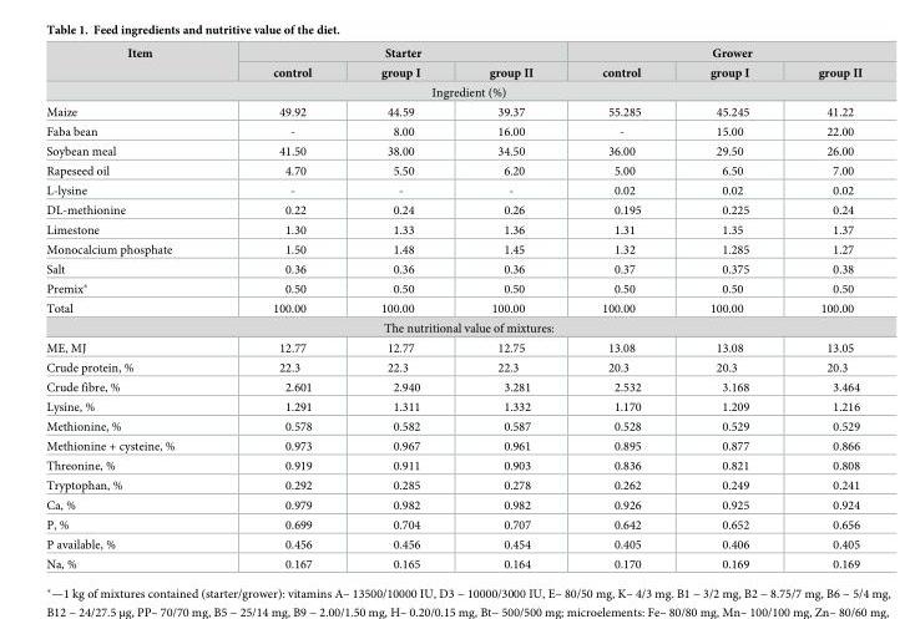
<table><thead><tr><td rowspan="2">Item</td><td colspan="3">Starter</td><td colspan="3">Grower</td></tr><tr><td>control</td><td>group I</td><td>group II</td><td>control</td><td>group I</td><td>group II</td></tr></thead><tbody><tr><td colspan="7">Ingredient (%)</td></tr><tr><td>Maize</td><td>49.92</td><td>44.59</td><td>39.37</td><td>55.285</td><td>45.245</td><td>41.22</td></tr><tr><td>Faba bean</td><td>-</td><td>8.00</td><td>16.00</td><td>-</td><td>15.00</td><td>22.00</td></tr><tr><td>Soybean meal</td><td>41.50</td><td>38.00</td><td>34.50</td><td>36.00</td><td>29.50</td><td>26.00</td></tr><tr><td>Rapeseed oil</td><td>4.70</td><td>5.50</td><td>6.20</td><td>5.00</td><td>6.50</td><td>7.00</td></tr><tr><td>L-lysine</td><td>-</td><td>-</td><td>-</td><td>0.02</td><td>0.02</td><td>0.02</td></tr><tr><td>DL-methionine</td><td>0.22</td><td>0.24</td><td>0.26</td><td>0.195</td><td>0.225</td><td>0.24</td></tr><tr><td>Limestone</td><td>1.30</td><td>1.33</td><td>1.36</td><td>1.31</td><td>1.35</td><td>1.37</td></tr><tr><td>Monocalcium phosphate</td><td>1.50</td><td>1.48</td><td>1.45</td><td>1.32</td><td>1.285</td><td>1.27</td></tr><tr><td>Salt</td><td>0.36</td><td>0.36</td><td>0.36</td><td>0.37</td><td>0.375</td><td>0.38</td></tr><tr><td>Premix*</td><td>0.50</td><td>0.50</td><td>0.50</td><td>0.50</td><td>0.50</td><td>0.50</td></tr><tr><td>Total</td><td>100.00</td><td>100.00</td><td>100.00</td><td>100.00</td><td>100.00</td><td>100.00</td></tr><tr><td colspan="7">The nutritional value of mixtures:</td></tr><tr><td>ME, MJ</td><td>12.77</td><td>12.77</td><td>12.75</td><td>13.08</td><td>13.08</td><td>13.05</td></tr><tr><td>Crude protein, %</td><td>22.3</td><td>22.3</td><td>22.3</td><td>20.3</td><td>20.3</td><td>20.3</td></tr><tr><td>Crude fibre, %</td><td>2.601</td><td>2.940</td><td>3.281</td><td>2.532</td><td>3.168</td><td>3.464</td></tr><tr><td>Lysine, %</td><td>1.291</td><td>1.311</td><td>1.332</td><td>1.170</td><td>1.209</td><td>1.216</td></tr><tr><td>Methionine, %</td><td>0.578</td><td>0.582</td><td>0.587</td><td>0.528</td><td>0.529</td><td>0.529</td></tr><tr><td>Methionine + cysteine, %</td><td>0.973</td><td>0.967</td><td>0.961</td><td>0.895</td><td>0.877</td><td>0.866</td></tr><tr><td>Threonine, %</td><td>0.919</td><td>0.911</td><td>0.903</td><td>0.836</td><td>0.821</td><td>0.808</td></tr><tr><td>Tryptophan, %</td><td>0.292</td><td>0.285</td><td>0.278</td><td>0.262</td><td>0.249</td><td>0.241</td></tr><tr><td>Ca, %</td><td>0.979</td><td>0.982</td><td>0.982</td><td>0.926</td><td>0.925</td><td>0.924</td></tr><tr><td>P, %</td><td>0.699</td><td>0.704</td><td>0.707</td><td>0.642</td><td>0.652</td><td>0.656</td></tr><tr><td>P available, %</td><td>0.456</td><td>0.456</td><td>0.454</td><td>0.405</td><td>0.406</td><td>0.405</td></tr><tr><td>Na, %</td><td>0.167</td><td>0.165</td><td>0.164</td><td>0.170</td><td>0.169</td><td>0.169</td></tr></tbody></table>